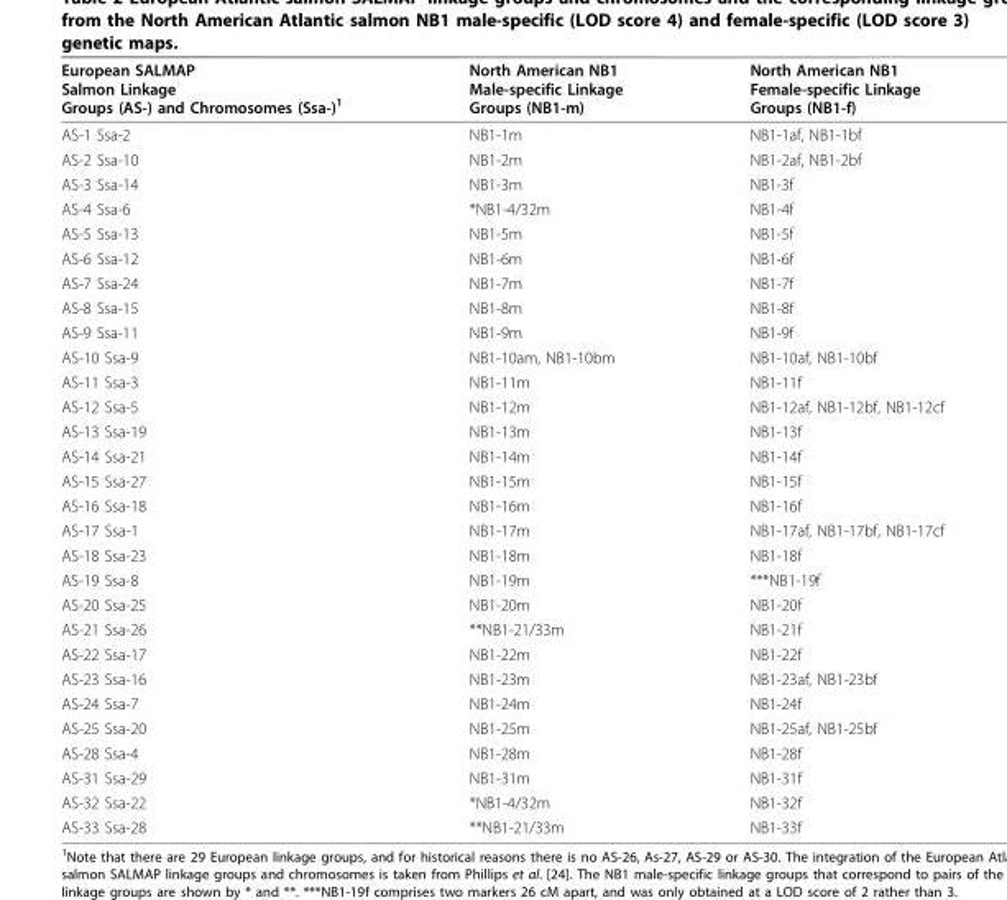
<table><thead><tr><td>European SALMAP Salmon Linkage Groups (AS-) and Chromosomes (Ssa-)<sup>1</sup></td><td>North American NB1 Male-specific Linkage Groups (NB1-m)</td><td>North American NB1 Female-specific Linkage Groups (NB1-f)</td></tr></thead><tbody><tr><td>AS-1 Ssa-2</td><td>NB1-1m</td><td>NB1-1af, NB1-1bf</td></tr><tr><td>AS-2 Ssa-10</td><td>NB1-2m</td><td>NB1-2af, NB1-2bf</td></tr><tr><td>AS-3 Ssa-14</td><td>NB1-3m</td><td>NB1-3f</td></tr><tr><td>AS-4 Ssa-6</td><td>*NB1-4/32m</td><td>NB1-4f</td></tr><tr><td>AS-5 Ssa-13</td><td>NB1-5m</td><td>NB1-5f</td></tr><tr><td>AS-6 Ssa-12</td><td>NB1-6m</td><td>NB1-6f</td></tr><tr><td>AS-7 Ssa-24</td><td>NB1-7m</td><td>NB1-7f</td></tr><tr><td>AS-8 Ssa-15</td><td>NB1-8m</td><td>NB1-8f</td></tr><tr><td>AS-9 Ssa-11</td><td>NB1-9m</td><td>NB1-9f</td></tr><tr><td>AS-10 Ssa-9</td><td>NB1-10am, NB1-10bm</td><td>NB1-10af, NB1-10bf</td></tr><tr><td>AS-11 Ssa-3</td><td>NB1-11m</td><td>NB1-11f</td></tr><tr><td>AS-12 Ssa-5</td><td>NB1-12m</td><td>NB1-12af, NB1-12bf, NB1-12cf</td></tr><tr><td>AS-13 Ssa-19</td><td>NB1-13m</td><td>NB1-13f</td></tr><tr><td>AS-14 Ssa-21</td><td>NB1-14m</td><td>NB1-14f</td></tr><tr><td>AS-15 Ssa-27</td><td>NB1-15m</td><td>NB1-15f</td></tr><tr><td>AS-16 Ssa-18</td><td>NB1-16m</td><td>NB1-16f</td></tr><tr><td>AS-17 Ssa-1</td><td>NB1-17m</td><td>NB1-17af, NB1-17bf, NB1-17cf</td></tr><tr><td>AS-18 Ssa-23</td><td>NB1-18m</td><td>NB1-18f</td></tr><tr><td>AS-19 Ssa-8</td><td>NB1-19m</td><td>***NB1-19f</td></tr><tr><td>AS-20 Ssa-25</td><td>NB1-20m</td><td>NB1-20f</td></tr><tr><td>AS-21 Ssa-26</td><td>**NB1-21/33m</td><td>NB1-21f</td></tr><tr><td>AS-22 Ssa-17</td><td>NB1-22m</td><td>NB1-22f</td></tr><tr><td>AS-23 Ssa-16</td><td>NB1-23m</td><td>NB1-23af, NB1-23bf</td></tr><tr><td>AS-24 Ssa-7</td><td>NB1-24m</td><td>NB1-24f</td></tr><tr><td>AS-25 Ssa-20</td><td>NB1-25m</td><td>NB1-25af, NB1-25bf</td></tr><tr><td>AS-28 Ssa-4</td><td>NB1-28m</td><td>NB1-28f</td></tr><tr><td>AS-31 Ssa-29</td><td>NB1-31m</td><td>NB1-31f</td></tr><tr><td>AS-32 Ssa-22</td><td>*NB1-4/32m</td><td>NB1-32f</td></tr><tr><td>AS-33 Ssa-28</td><td>**NB1-21/33m</td><td>NB1-33f</td></tr></tbody></table>